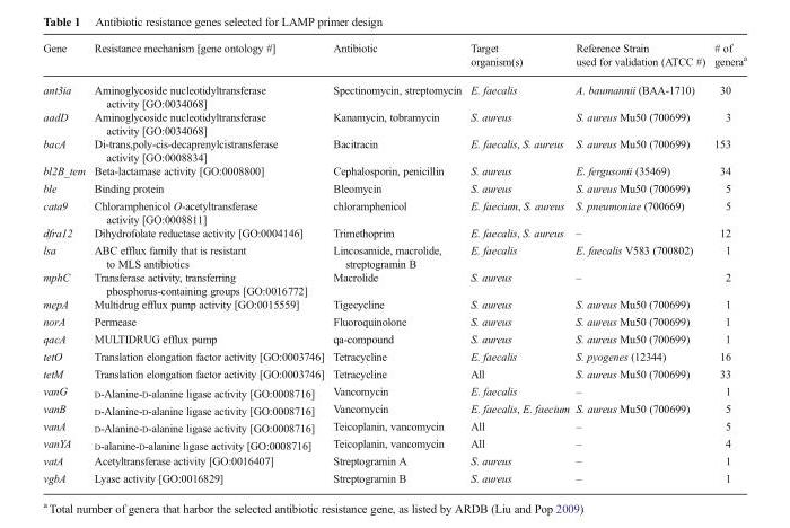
<table><thead><tr><td>Gene</td><td>Resistance mechanism [gene ontology #]</td><td>Antibiotic</td><td>Target organism(s)</td><td>Reference Strain used for validation (ATCC #)</td><td># of genera<sup>a</sup></td></tr></thead><tbody><tr><td>ant3ia</td><td>Aminoglycoside nucleotidyltransferase activity [GO:0034068]</td><td>Spectinomycin, streptomycin</td><td>E. faecalis</td><td>A. baumannii (BAA-1710)</td><td>30</td></tr><tr><td>aadD</td><td>Aminoglycoside nucleotidyltransferase activity [GO:0034068]</td><td>Kanamycin, tobramycin</td><td>S. aureus</td><td>S. aureus Mu50 (700699)</td><td>3</td></tr><tr><td>bacA</td><td>Di-trans,poly-cis-decaprenylcistransferase activity [GO:0008834]</td><td>Bacitracin</td><td>E. faecalis, S. aureus</td><td>S. aureus Mu50 (700699)</td><td>153</td></tr><tr><td>bl2B_tem</td><td>Beta-lactamase activity [GO:0008800]</td><td>Cephalosporin, penicillin</td><td>S. aureus</td><td>E. fergusonii (35469)</td><td>34</td></tr><tr><td>ble</td><td>Binding protein</td><td>Bleomycin</td><td>S. aureus</td><td>S. aureus Mu50 (700699)</td><td>5</td></tr><tr><td>cata9</td><td>Chloramphenicol O-acetyltransferase activity [GO:0008811]</td><td>chloramphenicol</td><td>E. faecium, S. aureus</td><td>S. pneumoniae (700669)</td><td>5</td></tr><tr><td>dfra12</td><td>Dihydrofolate reductase activity [GO:0004146]</td><td>Trimethoprim</td><td>E. faecalis, S. aureus</td><td>–</td><td>12</td></tr><tr><td>lsa</td><td>ABC efflux family that is resistant to MLS antibiotics</td><td>Lincosamide, macrolide, streptogramin B</td><td>E. faecalis</td><td>E. faecalis V583 (700802)</td><td>1</td></tr><tr><td>mphC</td><td>Transferase activity, transferring phosphorus-containing groups [GO:0016772]</td><td>Macrolide</td><td>S. aureus</td><td>–</td><td>2</td></tr><tr><td>mepA</td><td>Multidrug efflux pump activity [GO:0015559]</td><td>Tigecycline</td><td>S. aureus</td><td>S. aureus Mu50 (700699)</td><td>1</td></tr><tr><td>norA</td><td>Permease</td><td>Fluoroquinolone</td><td>S. aureus</td><td>S. aureus Mu50 (700699)</td><td>1</td></tr><tr><td>qacA</td><td>MULTIDRUG efflux pump</td><td>qa-compound</td><td>S. aureus</td><td>S. aureus Mu50 (700699)</td><td>1</td></tr><tr><td>tetO</td><td>Translation elongation factor activity [GO:0003746]</td><td>Tetracycline</td><td>E. faecalis</td><td>S. pyogenes (12344)</td><td>16</td></tr><tr><td>tetM</td><td>Translation elongation factor activity [GO:0003746]</td><td>Tetracycline</td><td>All</td><td>S. aureus Mu50 (700699)</td><td>33</td></tr><tr><td>vanG</td><td>D-Alanine-D-alanine ligase activity [GO:0008716]</td><td>Vancomycin</td><td>E. faecalis</td><td>–</td><td>1</td></tr><tr><td>vanB</td><td>D-Alanine-D-alanine ligase activity [GO:0008716]</td><td>Vancomycin</td><td>E. faecalis, E. faecium</td><td>S. aureus Mu50 (700699)</td><td>5</td></tr><tr><td>vanA</td><td>D-Alanine-D-alanine ligase activity [GO:0008716]</td><td>Teicoplanin, vancomycin</td><td>All</td><td>–</td><td>5</td></tr><tr><td>vanYA</td><td>D-alanine-D-alanine ligase activity [GO:0008716]</td><td>Teicoplanin, vancomycin</td><td>All</td><td>–</td><td>4</td></tr><tr><td>vatA</td><td>Acetyltransferase activity [GO:0016407]</td><td>Streptogramin A</td><td>S. aureus</td><td>–</td><td>1</td></tr><tr><td>vgbA</td><td>Lyase activity [GO:0016829]</td><td>Streptogramin B</td><td>S. aureus</td><td>–</td><td>1</td></tr></tbody></table>